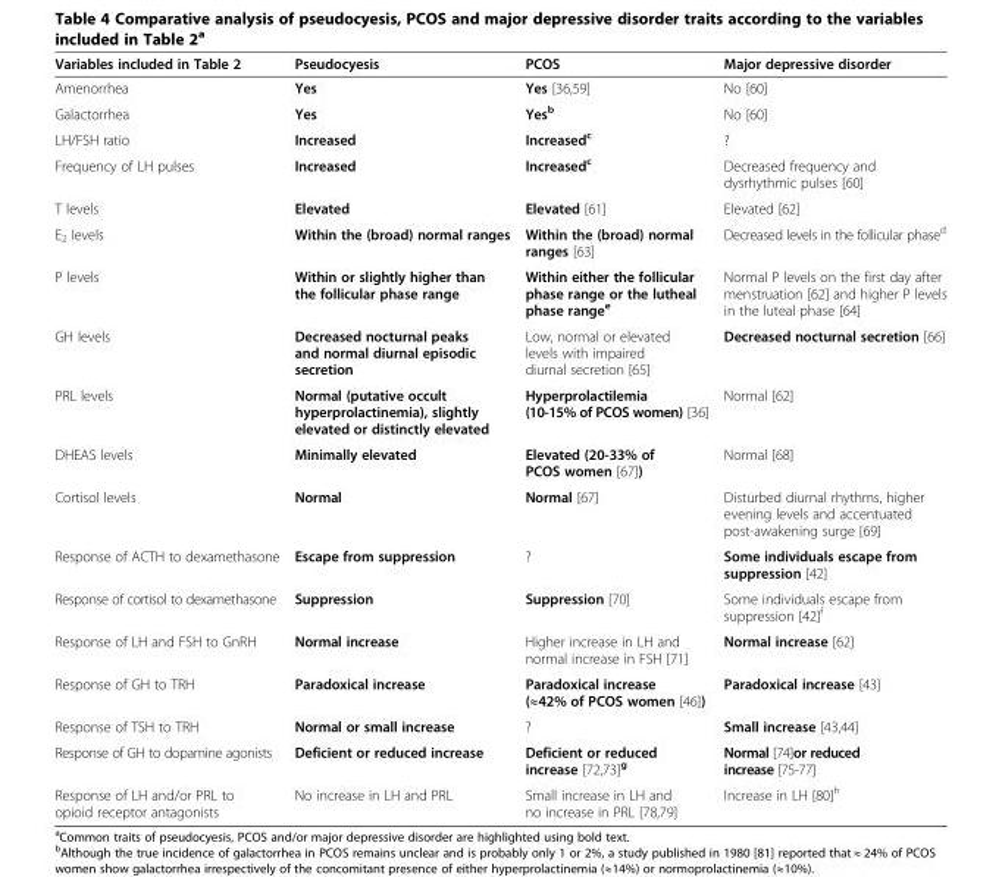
<table><thead><tr><td>Variables included in Table 2</td><td>Pseudocyesis</td><td>PCOS</td><td>Major depressive disorder</td></tr></thead><tbody><tr><td>Amenorrhea</td><td>Yes</td><td>Yes [36,59]</td><td>No [60]</td></tr><tr><td>Galactorrhea</td><td>Yes</td><td>Yes<sup>b</sup></td><td>No [60]</td></tr><tr><td>LH/FSH ratio</td><td>Increased</td><td>Increased<sup>c</sup></td><td>?</td></tr><tr><td>Frequency of LH pulses</td><td>Increased</td><td>Increased<sup>c</sup></td><td>Decreased frequency and dysrhythmic pulses [60]</td></tr><tr><td>T levels</td><td>Elevated</td><td>Elevated [61]</td><td>Elevated [62]</td></tr><tr><td>E<sub>2</sub> levels</td><td>Within the (broad) normal ranges</td><td>Within the (broad) normal ranges [63]</td><td>Decreased levels in the follicular phase<sup>d</sup></td></tr><tr><td>P levels</td><td>Within or slightly higher than the follicular phase range</td><td>Within either the follicular phase range or the lutheal phase range<sup>e</sup></td><td>Normal P levels on the first day after menstruation [62] and higher P levels in the luteal phase [64]</td></tr><tr><td>GH levels</td><td>Decreased nocturnal peaks and normal diurnal episodic secretion</td><td>Low, normal or elevated levels with impaired diurnal secretion [65]</td><td>Decreased nocturnal secretion [66]</td></tr><tr><td>PRL levels</td><td>Normal (putative occult hyperprolactinemia), slightly elevated or distinctly elevated</td><td>Hyperprolactilemia (10-15% of PCOS women) [36]</td><td>Normal [62]</td></tr><tr><td>DHEAS levels</td><td>Minimally elevated</td><td>Elevated (20-33% of PCOS women [67])</td><td>Normal [68]</td></tr><tr><td>Cortisol levels</td><td>Normal</td><td>Normal [67]</td><td>Disturbed diurnal rhythms, higher evening levels and accentuated post-awakening surge [69]</td></tr><tr><td>Response of ACTH to dexamethasone</td><td>Escape from suppression</td><td>?</td><td>Some individuals escape from suppression [42]</td></tr><tr><td>Response of cortisol to dexamethasone</td><td>Suppression</td><td>Suppression [70]</td><td>Some individuals escape from suppression [42]<sup>f</sup></td></tr><tr><td>Response of LH and FSH to GnRH</td><td>Normal increase</td><td>Higher increase in LH and normal increase in FSH [71]</td><td>Normal increase [62]</td></tr><tr><td>Response of GH to TRH</td><td>Paradoxical increase</td><td>Paradoxical increase (≈42% of PCOS women [46])</td><td>Paradoxical increase [43]</td></tr><tr><td>Response of TSH to TRH</td><td>Normal or small increase</td><td>?</td><td>Small increase [43,44]</td></tr><tr><td>Response of GH to dopamine agonists</td><td>Deficient or reduced increase</td><td>Deficient or reduced increase [72,73]<sup>g</sup></td><td>Normal [74]or reduced increase [75-77]</td></tr><tr><td>Response of LH and/or PRL to opioid receptor antagonists</td><td>No increase in LH and PRL</td><td>Small increase in LH and no increase in PRL [78,79]</td><td>Increase in LH [80]<sup>h</sup></td></tr></tbody></table>